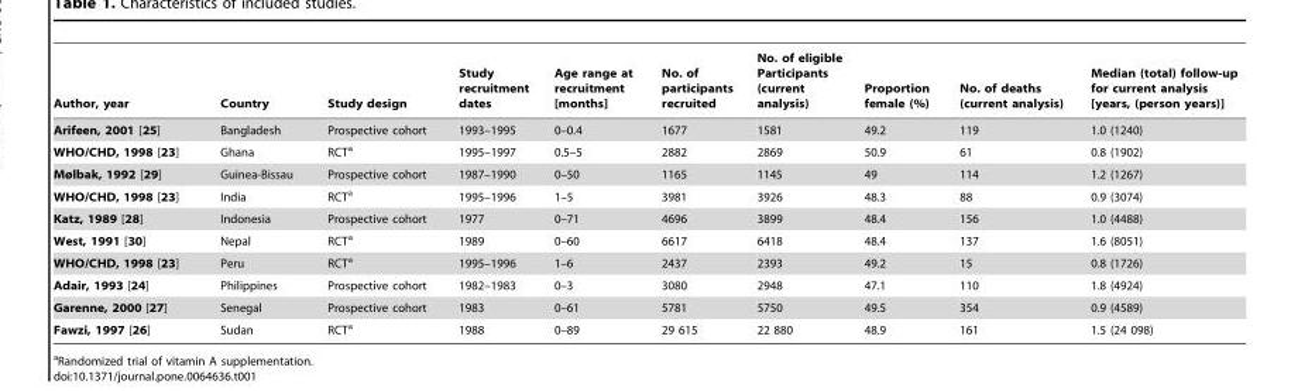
<table><thead><tr><td>Author, year</td><td>Country</td><td>Study design</td><td>Study recruitment dates</td><td>Age range at recruitment [months]</td><td>No. of participants recruited</td><td>No. of eligible Participants (current analysis)</td><td>Proportion female (%)</td><td>No. of deaths (current analysis)</td><td>Median (total) follow-up for current analysis [years, (person years)]</td></tr></thead><tbody><tr><td>Arifeen, 2001 [25]</td><td>Bangladesh</td><td>Prospective cohort</td><td>1993–1995</td><td>0–0.4</td><td>1677</td><td>1581</td><td>49.2</td><td>119</td><td>1.0 (1240)</td></tr><tr><td>WHO/CHD, 1998 [23]</td><td>Ghana</td><td>RCT<sup>a</sup></td><td>1995–1997</td><td>0.5–5</td><td>2882</td><td>2869</td><td>50.9</td><td>61</td><td>0.8 (1902)</td></tr><tr><td>Mølbak, 1992 [29]</td><td>Guinea-Bissau</td><td>Prospective cohort</td><td>1987–1990</td><td>0–50</td><td>1165</td><td>1145</td><td>49</td><td>114</td><td>1.2 (1267)</td></tr><tr><td>WHO/CHD, 1998 [23]</td><td>India</td><td>RCT<sup>a</sup></td><td>1995–1996</td><td>1–5</td><td>3981</td><td>3926</td><td>48.3</td><td>88</td><td>0.9 (3074)</td></tr><tr><td>Katz, 1989 [28]</td><td>Indonesia</td><td>Prospective cohort</td><td>1977</td><td>0–71</td><td>4696</td><td>3899</td><td>48.4</td><td>156</td><td>1.0 (4488)</td></tr><tr><td>West, 1991 [30]</td><td>Nepal</td><td>RCT<sup>a</sup></td><td>1989</td><td>0–60</td><td>6617</td><td>6418</td><td>48.4</td><td>137</td><td>1.6 (8051)</td></tr><tr><td>WHO/CHD, 1998 [23]</td><td>Peru</td><td>RCT<sup>a</sup></td><td>1995–1996</td><td>1–6</td><td>2437</td><td>2393</td><td>49.2</td><td>15</td><td>0.8 (1726)</td></tr><tr><td>Adair, 1993 [24]</td><td>Philippines</td><td>Prospective cohort</td><td>1982–1983</td><td>0–3</td><td>3080</td><td>2948</td><td>47.1</td><td>110</td><td>1.8 (4924)</td></tr><tr><td>Garenne, 2000 [27]</td><td>Senegal</td><td>Prospective cohort</td><td>1983</td><td>0–61</td><td>5781</td><td>5750</td><td>49.5</td><td>354</td><td>0.9 (4589)</td></tr><tr><td>Fawzi, 1997 [26]</td><td>Sudan</td><td>RCT<sup>a</sup></td><td>1988</td><td>0–89</td><td>29 615</td><td>22 880</td><td>48.9</td><td>161</td><td>1.5 (24 098)</td></tr></tbody></table>